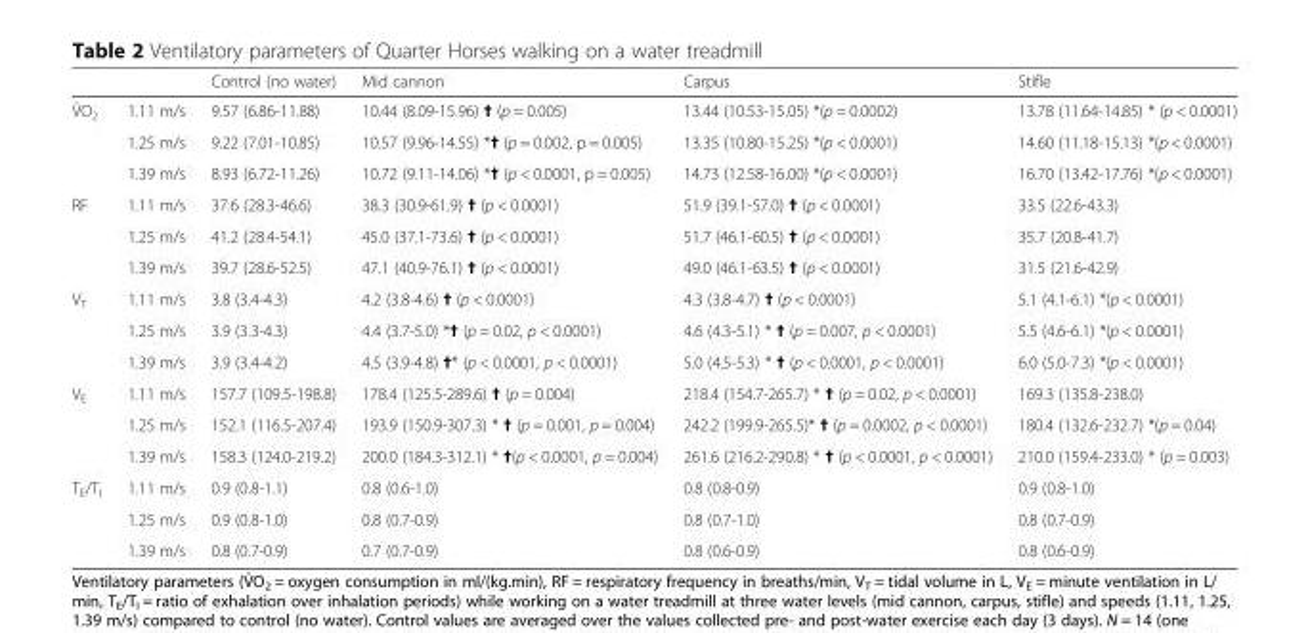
<table><thead><tr><td></td><td></td><td>Control (no water)</td><td>Mid cannon</td><td>Carpus</td><td>Stifle</td></tr></thead><tbody><tr><td rowspan="3">V̇O<sub>2</sub></td><td>1.11 m/s</td><td>9.57 (6.86-11.88)</td><td>10.44 (8.09-15.96) ✝ (p = 0.005)</td><td>13.44 (10.53-15.05) *(p = 0.0002)</td><td>13.78 (11.64-14.85) * (p &lt; 0.0001)</td></tr><tr><td>1.25 m/s</td><td>9.22 (7.01-10.85)</td><td>10.57 (9.96-14.55) *✝ (p = 0.002, p = 0.005)</td><td>13.35 (10.80-15.25) *(p &lt; 0.0001)</td><td>14.60 (11.18-15.13) *(p &lt; 0.0001)</td></tr><tr><td>1.39 m/s</td><td>8.93 (6.72-11.26)</td><td>10.72 (9.11-14.06) *✝ (p &lt; 0.0001, p = 0.005)</td><td>14.73 (12.58-16.00) *(p &lt; 0.0001)</td><td>16.70 (13.42-17.76) *(p &lt; 0.0001)</td></tr><tr><td rowspan="3">RF</td><td>1.11 m/s</td><td>37.6 (28.3-46.6)</td><td>38.3 (30.9-61.9) ✝ (p &lt; 0.0001)</td><td>51.9 (39.1-57.0) ✝ (p &lt; 0.0001)</td><td>33.5 (22.6-43.3)</td></tr><tr><td>1.25 m/s</td><td>41.2 (28.4-54.1)</td><td>45.0 (37.1-73.6) ✝ (p &lt; 0.0001)</td><td>51.7 (46.1-60.5) ✝ (p &lt; 0.0001)</td><td>35.7 (20.8-41.7)</td></tr><tr><td>1.39 m/s</td><td>39.7 (28.6-52.5)</td><td>47.1 (40.9-76.1) ✝ (p &lt; 0.0001)</td><td>49.0 (46.1-63.5) ✝ (p &lt; 0.0001)</td><td>31.5 (21.6-42.9)</td></tr><tr><td rowspan="3">V<sub>T</sub></td><td>1.11 m/s</td><td>3.8 (3.4-4.3)</td><td>4.2 (3.8-4.6) ✝ (p &lt; 0.0001)</td><td>4.3 (3.8-4.7) ✝ (p &lt; 0.0001)</td><td>5.1 (4.1-6.1) *(p &lt; 0.0001)</td></tr><tr><td>1.25 m/s</td><td>3.9 (3.3-4.3)</td><td>4.4 (3.7-5.0) *✝ (p = 0.02, p &lt; 0.0001)</td><td>4.6 (4.3-5.1) * ✝ (p = 0.007, p &lt; 0.0001)</td><td>5.5 (4.6-6.1) *(p &lt; 0.0001)</td></tr><tr><td>1.39 m/s</td><td>3.9 (3.4-4.2)</td><td>4.5 (3.9-4.8) ✝* (p &lt; 0.0001, p &lt; 0.0001)</td><td>5.0 (4.5-5.3) * ✝ (p &lt; 0.0001, p &lt; 0.0001)</td><td>6.0 (5.0-7.3) *(p &lt; 0.0001)</td></tr><tr><td rowspan="3">V<sub>E</sub></td><td>1.11 m/s</td><td>157.7 (109.5-198.8)</td><td>178.4 (125.5-289.6) ✝ (p = 0.004)</td><td>218.4 (154.7-265.7) * ✝ (p = 0.02, p &lt; 0.0001)</td><td>169.3 (135.8-238.0)</td></tr><tr><td>1.25 m/s</td><td>152.1 (116.5-207.4)</td><td>193.9 (150.9-307.3) * ✝ (p = 0.001, p = 0.004)</td><td>242.2 (199.9-265.5)* ✝ (p = 0.0002, p &lt; 0.0001)</td><td>180.4 (132.6-232.7) *(p = 0.04)</td></tr><tr><td>1.39 m/s</td><td>158.3 (124.0-219.2)</td><td>200.0 (184.3-312.1) * ✝(p &lt; 0.0001, p = 0.004)</td><td>261.6 (216.2-290.8) * ✝ (p &lt; 0.0001, p &lt; 0.0001)</td><td>210.0 (159.4-233.0) * (p = 0.003)</td></tr><tr><td rowspan="3">T<sub>E</sub>/T<sub>I</sub></td><td>1.11 m/s</td><td>0.9 (0.8-1.1)</td><td>0.8 (0.6-1.0)</td><td>0.8 (0.8-0.9)</td><td>0.9 (0.8-1.0)</td></tr><tr><td>1.25 m/s</td><td>0.9 (0.8-1.0)</td><td>0.8 (0.7-0.9)</td><td>0.8 (0.7-1.0)</td><td>0.8 (0.7-0.9)</td></tr><tr><td>1.39 m/s</td><td>0.8 (0.7-0.9)</td><td>0.7 (0.7-0.9)</td><td>0.8 (0.6-0.9)</td><td>0.8 (0.6-0.9)</td></tr></tbody></table>